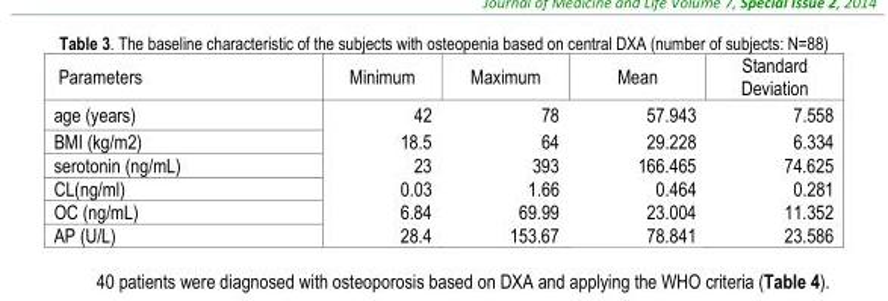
<table><tbody><tr><td>Parameters</td><td>Minimum</td><td>Maximum</td><td>Mean</td><td>Standard Deviation</td></tr><tr><td>age (years)</td><td>42</td><td>78</td><td>57.943</td><td>7.558</td></tr><tr><td>BMI (kg/m2)</td><td>18.5</td><td>64</td><td>29.228</td><td>6.334</td></tr><tr><td>serotonin (ng/mL)</td><td>23</td><td>393</td><td>166.465</td><td>74.625</td></tr><tr><td>CL(ng/ml)</td><td>0.03</td><td>1.66</td><td>0.464</td><td>0.281</td></tr><tr><td>OC (ng/mL)</td><td>6.84</td><td>69.99</td><td>23.004</td><td>11.352</td></tr><tr><td>AP (U/L)</td><td>28.4</td><td>153.67</td><td>78.841</td><td>23.586</td></tr></tbody></table>